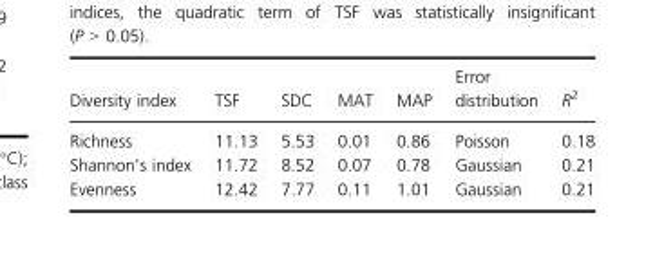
<table><thead><tr><td>Diversity index</td><td>TSF</td><td>SDC</td><td>MAT</td><td>MAP</td><td>Error distribution</td><td>R<sup>2</sup></td></tr></thead><tbody><tr><td>Richness</td><td>11.13</td><td>5.53</td><td>0.01</td><td>0.86</td><td>Poisson</td><td>0.18</td></tr><tr><td>Shannon’s index</td><td>11.72</td><td>8.52</td><td>0.07</td><td>0.78</td><td>Gaussian</td><td>0.21</td></tr><tr><td>Evenness</td><td>12.42</td><td>7.77</td><td>0.11</td><td>1.01</td><td>Gaussian</td><td>0.21</td></tr></tbody></table>